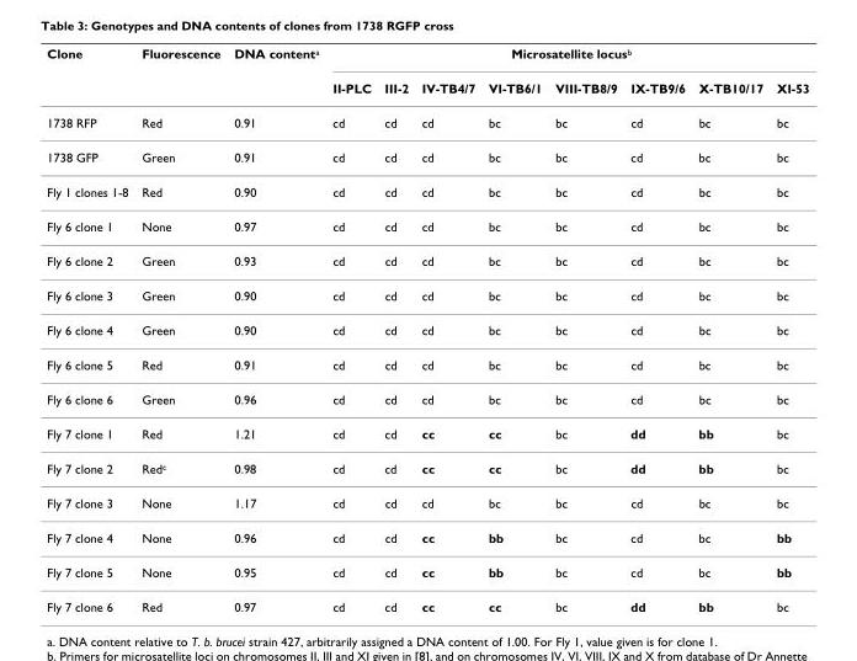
<table><thead><tr><td rowspan="2">Clone</td><td rowspan="2">Fluorescence</td><td rowspan="2">DNA content<sup>a</sup></td><td colspan="8">Microsatellite locus<sup>b</sup></td></tr><tr><td>II-PLC</td><td>III-2</td><td>IV-TB4/7</td><td>VI-TB6/1</td><td>VIII-TB8/9</td><td>IX-TB9/6</td><td>X-TB10/17</td><td>XI-53</td></tr></thead><tbody><tr><td>1738 RFP</td><td>Red</td><td>0.91</td><td>cd</td><td>cd</td><td>cd</td><td>bc</td><td>bc</td><td>cd</td><td>bc</td><td>bc</td></tr><tr><td>1738 GFP</td><td>Green</td><td>0.91</td><td>cd</td><td>cd</td><td>cd</td><td>bc</td><td>bc</td><td>cd</td><td>bc</td><td>bc</td></tr><tr><td>Fly 1 clones 1-8</td><td>Red</td><td>0.90</td><td>cd</td><td>cd</td><td>cd</td><td>bc</td><td>bc</td><td>cd</td><td>bc</td><td>bc</td></tr><tr><td>Fly 6 clone 1</td><td>None</td><td>0.97</td><td>cd</td><td>cd</td><td>cd</td><td>bc</td><td>bc</td><td>cd</td><td>bc</td><td>bc</td></tr><tr><td>Fly 6 clone 2</td><td>Green</td><td>0.93</td><td>cd</td><td>cd</td><td>cd</td><td>bc</td><td>bc</td><td>cd</td><td>bc</td><td>bc</td></tr><tr><td>Fly 6 clone 3</td><td>Green</td><td>0.90</td><td>cd</td><td>cd</td><td>cd</td><td>bc</td><td>bc</td><td>cd</td><td>bc</td><td>bc</td></tr><tr><td>Fly 6 clone 4</td><td>Green</td><td>0.90</td><td>cd</td><td>cd</td><td>cd</td><td>bc</td><td>bc</td><td>cd</td><td>bc</td><td>bc</td></tr><tr><td>Fly 6 clone 5</td><td>Red</td><td>0.91</td><td>cd</td><td>cd</td><td>cd</td><td>bc</td><td>bc</td><td>cd</td><td>bc</td><td>bc</td></tr><tr><td>Fly 6 clone 6</td><td>Green</td><td>0.96</td><td>cd</td><td>cd</td><td>cd</td><td>bc</td><td>bc</td><td>cd</td><td>bc</td><td>bc</td></tr><tr><td>Fly 7 clone 1</td><td>Red</td><td>1.21</td><td>cd</td><td>cd</td><td>cc</td><td>cc</td><td>bc</td><td>dd</td><td>bb</td><td>bc</td></tr><tr><td>Fly 7 clone 2</td><td>Red<sup>c</sup></td><td>0.98</td><td>cd</td><td>cd</td><td>cc</td><td>cc</td><td>bc</td><td>dd</td><td>bb</td><td>bc</td></tr><tr><td>Fly 7 clone 3</td><td>None</td><td>1.17</td><td>cd</td><td>cd</td><td>cd</td><td>bc</td><td>bc</td><td>cd</td><td>bc</td><td>bc</td></tr><tr><td>Fly 7 clone 4</td><td>None</td><td>0.96</td><td>cd</td><td>cd</td><td>cc</td><td>bb</td><td>bc</td><td>cd</td><td>bc</td><td>bb</td></tr><tr><td>Fly 7 clone 5</td><td>None</td><td>0.95</td><td>cd</td><td>cd</td><td>cc</td><td>bb</td><td>bc</td><td>cd</td><td>bc</td><td>bb</td></tr><tr><td>Fly 7 clone 6</td><td>Red</td><td>0.97</td><td>cd</td><td>cd</td><td>cc</td><td>cc</td><td>bc</td><td>dd</td><td>bb</td><td>bc</td></tr></tbody></table>